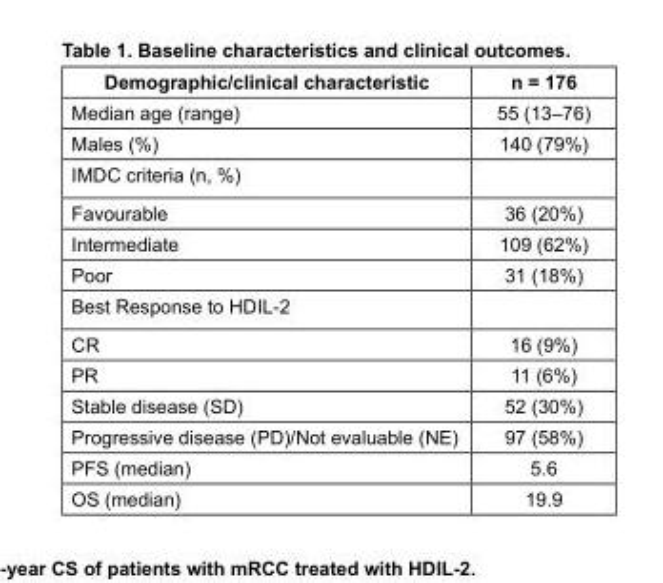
<table><thead><tr><td>Demographic/clinical characteristic</td><td>n = 176</td></tr></thead><tbody><tr><td>Median age (range)</td><td>55 (13–76)</td></tr><tr><td>Males (%)</td><td>140 (79%)</td></tr><tr><td colspan="2">IMDC criteria (n, %)</td></tr><tr><td>Favourable</td><td>36 (20%)</td></tr><tr><td>Intermediate</td><td>109 (62%)</td></tr><tr><td>Poor</td><td>31 (18%)</td></tr><tr><td colspan="2">Best Response to HDIL-2</td></tr><tr><td>CR</td><td>16 (9%)</td></tr><tr><td>PR</td><td>11 (6%)</td></tr><tr><td>Stable disease (SD)</td><td>52 (30%)</td></tr><tr><td>Progressive disease (PD)/Not evaluable (NE)</td><td>97 (58%)</td></tr><tr><td>PFS (median)</td><td>5.6</td></tr><tr><td>OS (median)</td><td>19.9</td></tr></tbody></table>